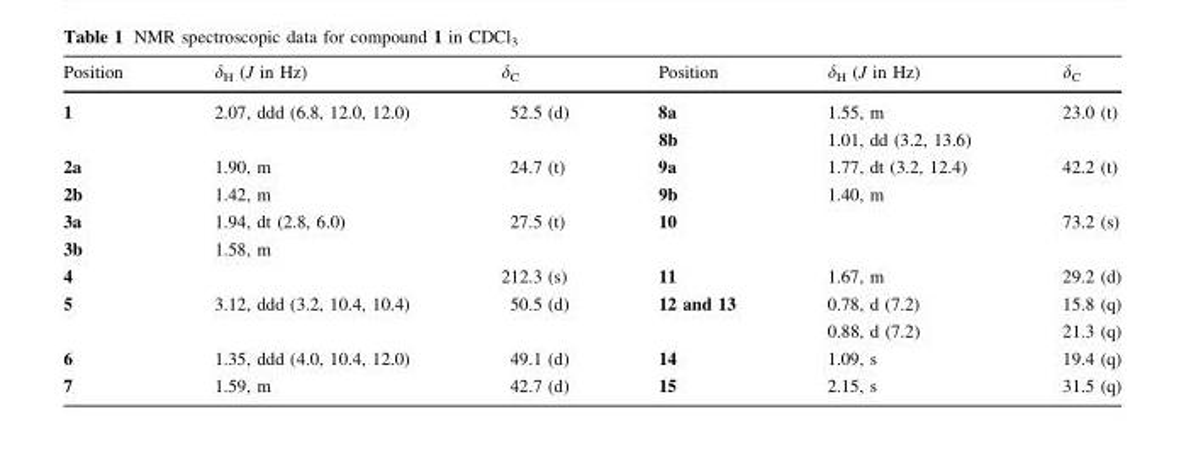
<table><thead><tr><td>Position</td><td>δ<sub>H</sub> (J in Hz)</td><td>δ<sub>C</sub></td><td>Position</td><td>δ<sub>H</sub> (J in Hz)</td><td>δ<sub>C</sub></td></tr></thead><tbody><tr><td>1</td><td>2.07, ddd (6.8, 12.0, 12.0)</td><td>52.5 (d)</td><td>8a 8b</td><td>1.55, m 1.01, dd (3.2, 13.6)</td><td>23.0 (t)</td></tr><tr><td>2a</td><td>1.90, m</td><td>24.7 (t)</td><td>9a</td><td>1.77, dt (3.2, 12.4)</td><td>42.2 (t)</td></tr><tr><td>2b</td><td>1.42, m</td><td></td><td>9b</td><td>1.40, m</td><td></td></tr><tr><td>3a</td><td>1.94, dt (2.8, 6.0)</td><td>27.5 (t)</td><td>10</td><td></td><td>73.2 (s)</td></tr><tr><td>3b</td><td>1.58, m</td><td></td><td></td><td></td><td></td></tr><tr><td>4</td><td></td><td>212.3 (s)</td><td>11</td><td>1.67, m</td><td>29.2 (d)</td></tr><tr><td>5</td><td>3.12, ddd (3.2, 10.4, 10.4)</td><td>50.5 (d)</td><td>12 and 13</td><td>0.78, d (7.2) 0.88, d (7.2)</td><td>15.8 (q) 21.3 (q)</td></tr><tr><td>6</td><td>1.35, ddd (4.0, 10.4, 12.0)</td><td>49.1 (d)</td><td>14</td><td>1.09, s</td><td>19.4 (q)</td></tr><tr><td>7</td><td>1.59, m</td><td>42.7 (d)</td><td>15</td><td>2.15, s</td><td>31.5 (q)</td></tr></tbody></table>